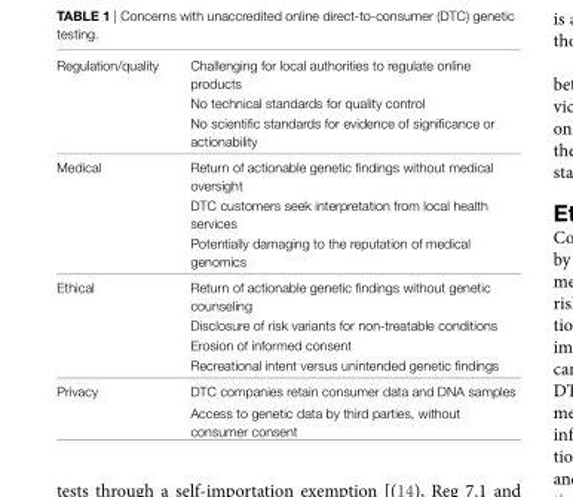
<table><tbody><tr><td rowspan="3">Regulation/quality</td><td>Challenging for local authorities to regulate online products</td></tr><tr><td>No technical standards for quality control</td></tr><tr><td>No scientific standards for evidence of significance or actionability</td></tr><tr><td rowspan="3">Medical</td><td>Return of actionable genetic findings without medical oversight</td></tr><tr><td>DTC customers seek interpretation from local health services</td></tr><tr><td>Potentially damaging to the reputation of medical genomics</td></tr><tr><td rowspan="4">Ethical</td><td>Return of actionable genetic findings without genetic counseling</td></tr><tr><td>Disclosure of risk variants for non-treatable conditions</td></tr><tr><td>Erosion of informed consent</td></tr><tr><td>Recreational intent versus unintended genetic findings</td></tr><tr><td rowspan="2">Privacy</td><td>DTC companies retain consumer data and DNA samples</td></tr><tr><td>Access to genetic data by third parties, without consumer consent</td></tr></tbody></table>